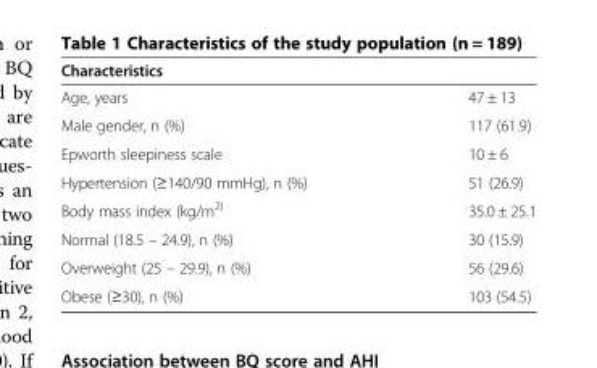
<table><thead><tr><td>Characteristics</td><td></td></tr></thead><tbody><tr><td>Age, years</td><td>47 ± 13</td></tr><tr><td>Male gender, n (%)</td><td>117 (61.9)</td></tr><tr><td>Epworth sleepiness scale</td><td>10 ± 6</td></tr><tr><td>Hypertension (≥140/90 mmHg), n (%)</td><td>51 (26.9)</td></tr><tr><td>Body mass index (kg/m<sup>2)</sup></td><td>35.0 ± 25.1</td></tr><tr><td>Normal (18.5 – 24.9), n (%)</td><td>30 (15.9)</td></tr><tr><td>Overweight (25 – 29.9), n (%)</td><td>56 (29.6)</td></tr><tr><td>Obese (≥30), n (%)</td><td>103 (54.5)</td></tr></tbody></table>